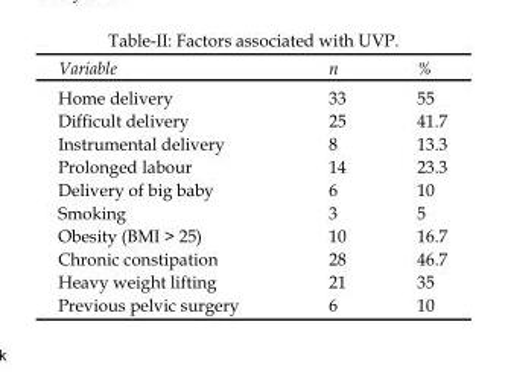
<table><thead><tr><td>Variable</td><td>n</td><td>%</td></tr></thead><tbody><tr><td>Home delivery</td><td>33</td><td>55</td></tr><tr><td>Difficult delivery</td><td>25</td><td>41.7</td></tr><tr><td>Instrumental delivery</td><td>8</td><td>13.3</td></tr><tr><td>Prolonged labour</td><td>14</td><td>23.3</td></tr><tr><td>Delivery of big baby</td><td>6</td><td>10</td></tr><tr><td>Smoking</td><td>3</td><td>5</td></tr><tr><td>Obesity (BMI &gt; 25)</td><td>10</td><td>16.7</td></tr><tr><td>Chronic constipation</td><td>28</td><td>46.7</td></tr><tr><td>Heavy weight lifting</td><td>21</td><td>35</td></tr><tr><td>Previous pelvic surgery</td><td>6</td><td>10</td></tr></tbody></table>